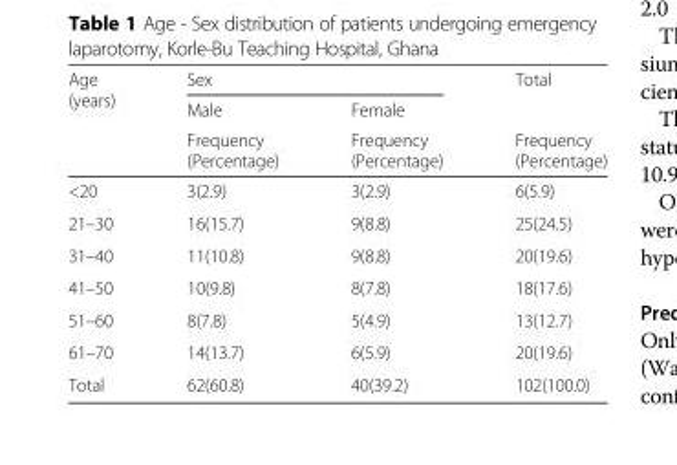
<table><thead><tr><td rowspan="3">Age (years)</td><td colspan="2">Sex</td><td rowspan="3">Total Frequency (Percentage)</td></tr><tr><td rowspan="2">Male Frequency (Percentage)</td><td rowspan="2">Female Frequency (Percentage)</td></tr><tr></tr></thead><tbody><tr><td>&lt;20</td><td>3(2.9)</td><td>3(2.9)</td><td>6(5.9)</td></tr><tr><td>21–30</td><td>16(15.7)</td><td>9(8.8)</td><td>25(24.5)</td></tr><tr><td>31–40</td><td>11(10.8)</td><td>9(8.8)</td><td>20(19.6)</td></tr><tr><td>41–50</td><td>10(9.8)</td><td>8(7.8)</td><td>18(17.6)</td></tr><tr><td>51–60</td><td>8(7.8)</td><td>5(4.9)</td><td>13(12.7)</td></tr><tr><td>61–70</td><td>14(13.7)</td><td>6(5.9)</td><td>20(19.6)</td></tr><tr><td>Total</td><td>62(60.8)</td><td>40(39.2)</td><td>102(100.0)</td></tr></tbody></table>